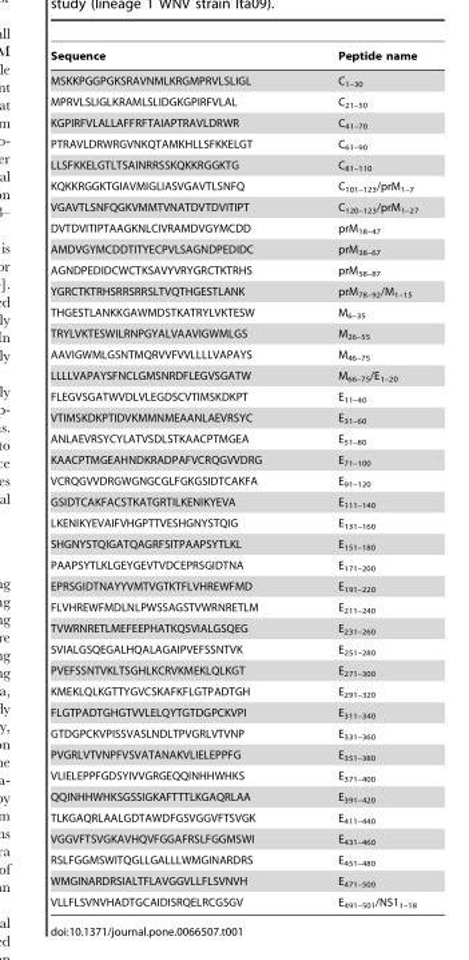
<table><thead><tr><td>Sequence</td><td>Peptide name</td></tr></thead><tbody><tr><td>MSKKPGGPGKSRAVNMLKRGMPRVLSLIGL</td><td>C<sub>1–30</sub></td></tr><tr><td>MPRVLSLIGLKRAMLSLIDGKGPIRFVLAL</td><td>C<sub>21–50</sub></td></tr><tr><td>KGPIRFVLALLAFFRFTAIAPTRAVLDRWR</td><td>C<sub>41–70</sub></td></tr><tr><td>PTRAVLDRWRGVNKQTAMKHLLSFKKELGT</td><td>C<sub>61–90</sub></td></tr><tr><td>LLSFKKELGTLTSAINRRSSKQKKRGGKTG</td><td>C<sub>81–110</sub></td></tr><tr><td>KQKKRGGKTGIAVMIGLIASVGAVTLSNFQ</td><td>C<sub>101–123</sub>/prM<sub>1–7</sub></td></tr><tr><td>VGAVTLSNFQGKVMMTVNATDVTDVITIPT</td><td>C<sub>120–123</sub>/prM<sub>1–27</sub></td></tr><tr><td>DVTDVITIPTAAGKNLCIVRAMDVGYMCDD</td><td>prM<sub>18–47</sub></td></tr><tr><td>AMDVGYMCDDTITYECPVLSAGNDPEDIDC</td><td>prM<sub>38–67</sub></td></tr><tr><td>AGNDPEDIDCWCTKSAVYVRYGRCTKTRHS</td><td>prM<sub>58–87</sub></td></tr><tr><td>YGRCTKTRHSRRSRRSLTVQTHGESTLANK</td><td>prM<sub>78–92</sub>/M<sub>1–15</sub></td></tr><tr><td>THGESTLANKKGAWMDSTKATRYLVKTESW</td><td>M<sub>6–35</sub></td></tr><tr><td>TRYLVKTESWILRNPGYALVAAVIGWMLGS</td><td>M<sub>26–55</sub></td></tr><tr><td>AAVIGWMLGSNTMQRVVFVVLLLLVAPAYS</td><td>M<sub>46–75</sub></td></tr><tr><td>LLLLVAPAYSFNCLGMSNRDFLEGVSGATW</td><td>M<sub>66–75</sub>/E<sub>1–20</sub></td></tr><tr><td>FLEGVSGATWVDLVLEGDSCVTIMSKDKPT</td><td>E<sub>11–40</sub></td></tr><tr><td>VTIMSKDKPTIDVKMMNMEAANLAEVRSYC</td><td>E<sub>31–60</sub></td></tr><tr><td>ANLAEVRSYCYLATVSDLSTKAACPTMGEA</td><td>E<sub>51–80</sub></td></tr><tr><td>KAACPTMGEAHNDKRADPAFVCRQGVVDRG</td><td>E<sub>71–100</sub></td></tr><tr><td>VCRQGVVDRGWGNGCGLFGKGSIDTCAKFA</td><td>E<sub>91–120</sub></td></tr><tr><td>GSIDTCAKFACSTKATGRTILKENIKYEVA</td><td>E<sub>111–140</sub></td></tr><tr><td>LKENIKYEVAIFVHGPTTVESHGNYSTQIG</td><td>E<sub>131–160</sub></td></tr><tr><td>SHGNYSTQIGATQAGRFSITPAAPSYTLKL</td><td>E<sub>151–180</sub></td></tr><tr><td>PAAPSYTLKLGEYGEVTVDCEPRSGIDTNA</td><td>E<sub>171–200</sub></td></tr><tr><td>EPRSGIDTNAYYVMTVGTKTFLVHREWFMD</td><td>E<sub>191–220</sub></td></tr><tr><td>FLVHREWFMDLNLPWSSAGSTVWRNRETLM</td><td>E<sub>211–240</sub></td></tr><tr><td>TVWRNRETLMEFEEPHATKQSVIALGSQEG</td><td>E<sub>231–260</sub></td></tr><tr><td>SVIALGSQEGALHQALAGAIPVEFSSNTVK</td><td>E<sub>251–280</sub></td></tr><tr><td>PVEFSSNTVKLTSGHLKCRVKMEKLQLKGT</td><td>E<sub>271–300</sub></td></tr><tr><td>KMEKLQLKGTTYGVCSKAFKFLGTPADTGH</td><td>E<sub>291–320</sub></td></tr><tr><td>FLGTPADTGHGTVVLELQYTGTDGPCKVPI</td><td>E<sub>311–340</sub></td></tr><tr><td>GTDGPCKVPISSVASLNDLTPVGRLVTVNP</td><td>E<sub>331–360</sub></td></tr><tr><td>PVGRLVTVNPFVSVATANAKVLIELEPPFG</td><td>E<sub>351–380</sub></td></tr><tr><td>VLIELEPPFGDSYIVVGRGEQQINHHWHKS</td><td>E<sub>371–400</sub></td></tr><tr><td>QQINHHWHKSGSSIGKAFTTTLKGAQRLAA</td><td>E<sub>391–420</sub></td></tr><tr><td>TLKGAQRLAALGDTAWDFGSVGGVFTSVGK</td><td>E<sub>411–440</sub></td></tr><tr><td>VGGVFTSVGKAVHQVFGGAFRSLFGGMSWI</td><td>E<sub>431–460</sub></td></tr><tr><td>RSLFGGMSWITQGLLGALLLWMGINARDRS</td><td>E<sub>451–480</sub></td></tr><tr><td>WMGINARDRSIALTFLAVGGVLLFLSVNVH</td><td>E<sub>471–500</sub></td></tr><tr><td>VLLFLSVNVHADTGCAIDISRQELRCGSGV</td><td>E<sub>491–501</sub>/NS1<sub>1–18</sub></td></tr></tbody></table>